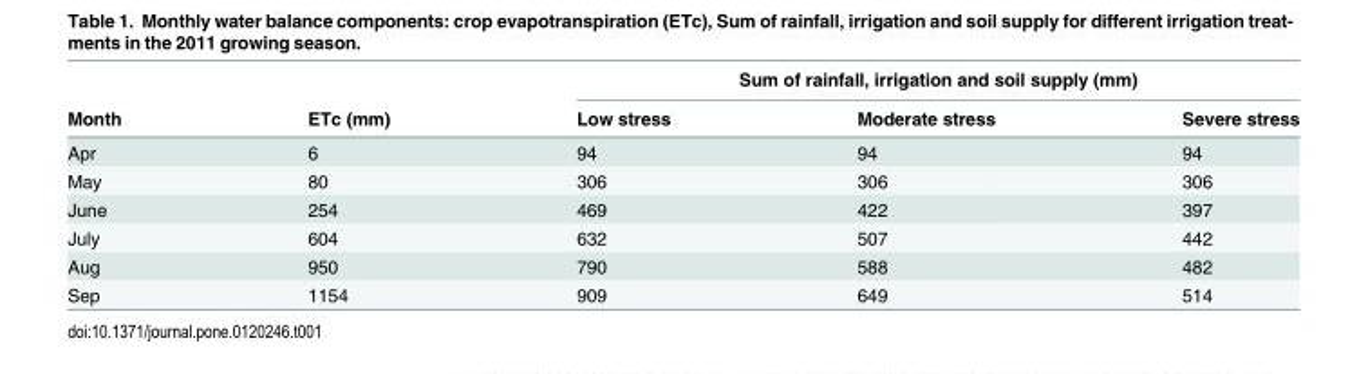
<table><thead><tr><td rowspan="2">Month</td><td rowspan="2">ETc (mm)</td><td colspan="3">Sum of rainfall, irrigation and soil supply (mm)</td></tr><tr><td>Low stress</td><td>Moderate stress</td><td>Severe stress</td></tr></thead><tbody><tr><td>Apr</td><td>6</td><td>94</td><td>94</td><td>94</td></tr><tr><td>May</td><td>80</td><td>306</td><td>306</td><td>306</td></tr><tr><td>June</td><td>254</td><td>469</td><td>422</td><td>397</td></tr><tr><td>July</td><td>604</td><td>632</td><td>507</td><td>442</td></tr><tr><td>Aug</td><td>950</td><td>790</td><td>588</td><td>482</td></tr><tr><td>Sep</td><td>1154</td><td>909</td><td>649</td><td>514</td></tr></tbody></table>